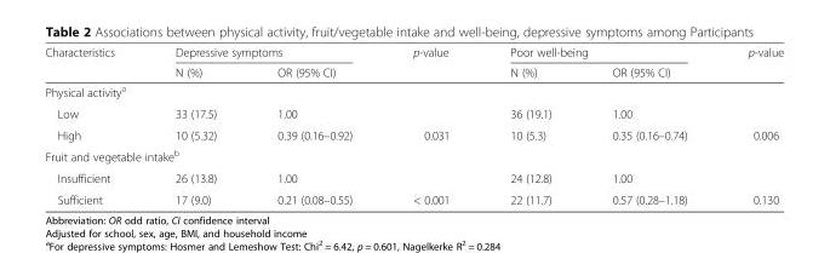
<table><thead><tr><td rowspan="2">Characteristics</td><td colspan="2">Depressive symptoms</td><td rowspan="2">p-value</td><td colspan="2">Poor well-being</td><td rowspan="2">p-value</td></tr><tr><td>N (%)</td><td>OR (95% CI)</td><td>N (%)</td><td>OR (95% CI)</td></tr></thead><tbody><tr><td colspan="7">Physical activity<sup>a</sup></td></tr><tr><td>Low</td><td>33 (17.5)</td><td>1.00</td><td></td><td>36 (19.1)</td><td>1.00</td><td></td></tr><tr><td>High</td><td>10 (5.32)</td><td>0.39 (0.16–0.92)</td><td>0.031</td><td>10 (5.3)</td><td>0.35 (0.16–0.74)</td><td>0.006</td></tr><tr><td colspan="7">Fruit and vegetable intake<sup>b</sup></td></tr><tr><td>Insufficient</td><td>26 (13.8)</td><td>1.00</td><td></td><td>24 (12.8)</td><td>1.00</td><td></td></tr><tr><td>Sufficient</td><td>17 (9.0)</td><td>0.21 (0.08–0.55)</td><td>&lt; 0.001</td><td>22 (11.7)</td><td>0.57 (0.28–1.18)</td><td>0.130</td></tr></tbody></table>